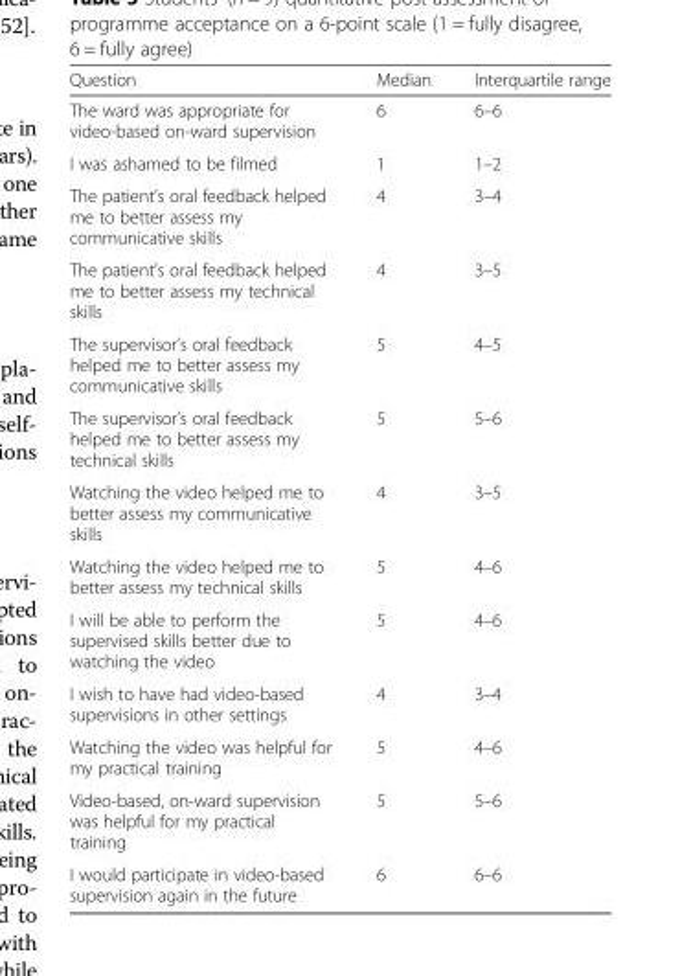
<table><thead><tr><td>Question</td><td>Median</td><td>Interquartile range</td></tr></thead><tbody><tr><td>The ward was appropriate for video-based on-ward supervision</td><td>6</td><td>6–6</td></tr><tr><td>I was ashamed to be filmed</td><td>1</td><td>1–2</td></tr><tr><td>The patient’s oral feedback helped me to better assess my communicative skills</td><td>4</td><td>3–4</td></tr><tr><td>The patient’s oral feedback helped me to better assess my technical skills</td><td>4</td><td>3–5</td></tr><tr><td>The supervisor’s oral feedback helped me to better assess my communicative skills</td><td>5</td><td>4–5</td></tr><tr><td>The supervisor’s oral feedback helped me to better assess my technical skills</td><td>5</td><td>5–6</td></tr><tr><td>Watching the video helped me to better assess my communicative skills</td><td>4</td><td>3–5</td></tr><tr><td>Watching the video helped me to better assess my technical skills</td><td>5</td><td>4–6</td></tr><tr><td>I will be able to perform the supervised skills better due to watching the video</td><td>5</td><td>4–6</td></tr><tr><td>I wish to have had video-based supervisions in other settings</td><td>4</td><td>3–4</td></tr><tr><td>Watching the video was helpful for my practical training</td><td>5</td><td>4–6</td></tr><tr><td>Video-based, on-ward supervision was helpful for my practical training</td><td>5</td><td>5–6</td></tr><tr><td>I would participate in video-based supervision again in the future</td><td>6</td><td>6–6</td></tr></tbody></table>